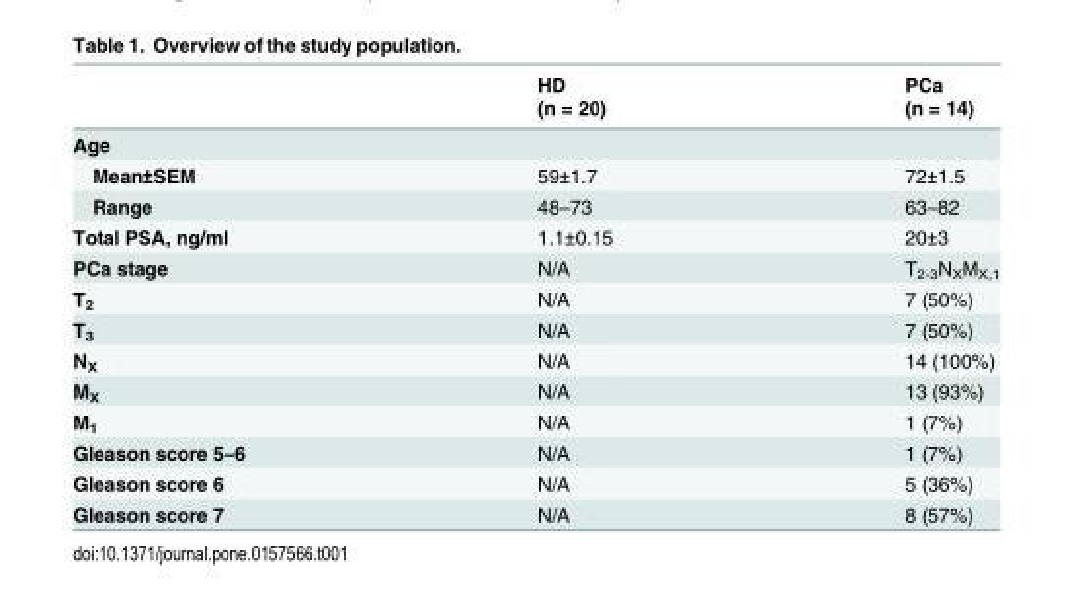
<table><thead><tr><td rowspan="2"></td><td rowspan="2">HD (n = 20)</td><td rowspan="2">PCa (n = 14)</td></tr><tr></tr></thead><tbody><tr><td colspan="3">Age</td></tr><tr><td>Mean±SEM</td><td>59±1.7</td><td>72±1.5</td></tr><tr><td>Range</td><td>48–73</td><td>63–82</td></tr><tr><td>Total PSA, ng/ml</td><td>1.1±0.15</td><td>20±3</td></tr><tr><td>PCa stage</td><td>N/A</td><td>T<sub>2-3</sub>N<sub>X</sub>M<sub>X,1</sub></td></tr><tr><td>T<sub>2</sub></td><td>N/A</td><td>7 (50%)</td></tr><tr><td>T<sub>3</sub></td><td>N/A</td><td>7 (50%)</td></tr><tr><td>N<sub>X</sub></td><td>N/A</td><td>14 (100%)</td></tr><tr><td>M<sub>X</sub></td><td>N/A</td><td>13 (93%)</td></tr><tr><td>M<sub>1</sub></td><td>N/A</td><td>1 (7%)</td></tr><tr><td>Gleason score 5–6</td><td>N/A</td><td>1 (7%)</td></tr><tr><td>Gleason score 6</td><td>N/A</td><td>5 (36%)</td></tr><tr><td>Gleason score 7</td><td>N/A</td><td>8 (57%)</td></tr></tbody></table>